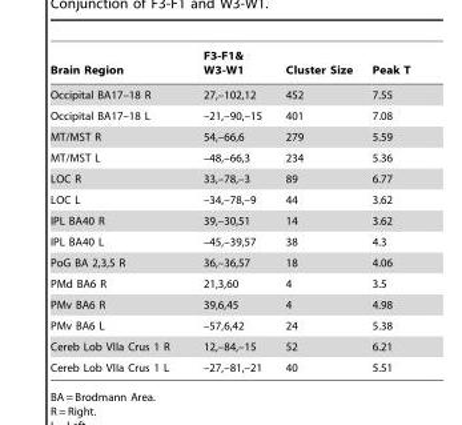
<table><thead><tr><td>Brain Region</td><td>F3-F1&amp; W3-W1</td><td>Cluster Size</td><td>Peak T</td></tr></thead><tbody><tr><td>Occipital BA17–18 R</td><td>27,–102,12</td><td>452</td><td>7.55</td></tr><tr><td>Occipital BA17–18 L</td><td>–21,–90,–15</td><td>401</td><td>7.08</td></tr><tr><td>MT/MST R</td><td>54,–66,6</td><td>279</td><td>5.59</td></tr><tr><td>MT/MST L</td><td>–48,–66,3</td><td>234</td><td>5.36</td></tr><tr><td>LOC R</td><td>33,–78,–3</td><td>89</td><td>6.77</td></tr><tr><td>LOC L</td><td>–34,–78,–9</td><td>44</td><td>3.62</td></tr><tr><td>IPL BA40 R</td><td>39,–30,51</td><td>14</td><td>3.62</td></tr><tr><td>IPL BA40 L</td><td>–45,–39,57</td><td>38</td><td>4.3</td></tr><tr><td>PoG BA 2,3,5 R</td><td>36,–36,57</td><td>18</td><td>4.06</td></tr><tr><td>PMd BA6 R</td><td>21,3,60</td><td>4</td><td>3.5</td></tr><tr><td>PMv BA6 R</td><td>39,6,45</td><td>4</td><td>4.98</td></tr><tr><td>PMv BA6 L</td><td>–57,6,42</td><td>24</td><td>5.38</td></tr><tr><td>Cereb Lob VIIa Crus 1 R</td><td>12,–84,–15</td><td>52</td><td>6.21</td></tr><tr><td>Cereb Lob VIIa Crus 1 L</td><td>–27,–81,–21</td><td>40</td><td>5.51</td></tr></tbody></table>